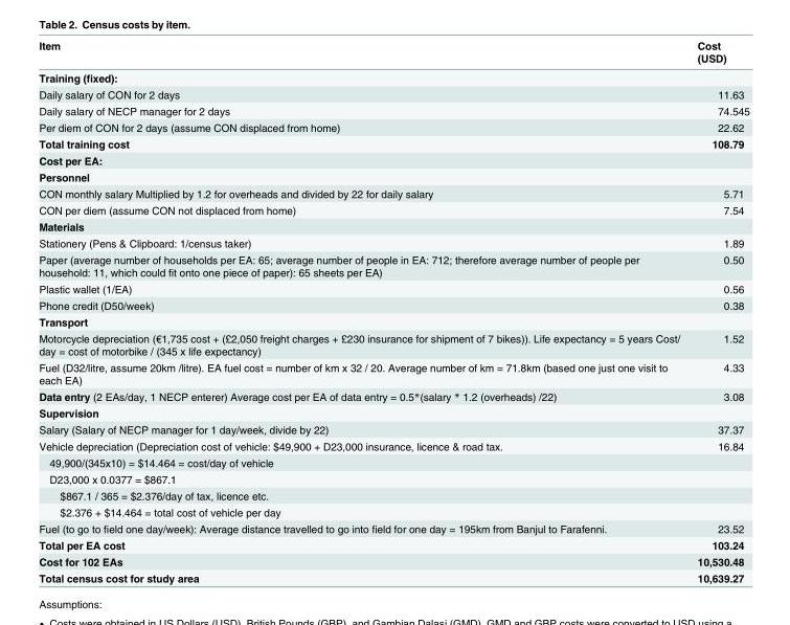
<table><thead><tr><td>Item</td><td>Cost (USD)</td></tr></thead><tbody><tr><td colspan="2">Training (fixed):</td></tr><tr><td>Daily salary of CON for 2 days</td><td>11.63</td></tr><tr><td>Daily salary of NECP manager for 2 days</td><td>74.545</td></tr><tr><td>Per diem of CON for 2 days (assume CON displaced from home)</td><td>22.62</td></tr><tr><td>Total training cost</td><td>108.79</td></tr><tr><td colspan="2">Cost per EA:</td></tr><tr><td colspan="2">Personnel</td></tr><tr><td>CON monthly salary Multiplied by 1.2 for overheads and divided by 22 for daily salary</td><td>5.71</td></tr><tr><td>CON per diem (assume CON not displaced from home)</td><td>7.54</td></tr><tr><td colspan="2">Materials</td></tr><tr><td>Stationery (Pens &amp; Clipboard: 1/census taker)</td><td>1.89</td></tr><tr><td>Paper (average number of households per EA: 65; average number of people in EA: 712; therefore average number of people per household: 11, which could fit onto one piece of paper): 65 sheets per EA)</td><td>0.50</td></tr><tr><td>Plastic wallet (1/EA)</td><td>0.56</td></tr><tr><td>Phone credit (D50/week)</td><td>0.38</td></tr><tr><td colspan="2">Transport</td></tr><tr><td>Motorcycle depreciation (€1,735 cost + (£2,050 freight charges + £230 insurance for shipment of 7 bikes)). Life expectancy = 5 years Cost/ day = cost of motorbike / (345 x life expectancy)</td><td>1.52</td></tr><tr><td>Fuel (D32/litre, assume 20km /litre). EA fuel cost = number of km x 32 / 20. Average number of km = 71.8km (based one just one visit to each EA)</td><td>4.33</td></tr><tr><td>Data entry (2 EAs/day, 1 NECP enterer) Average cost per EA of data entry = 0.5*(salary * 1.2 (overheads) /22)</td><td>3.08</td></tr><tr><td colspan="2">Supervision</td></tr><tr><td>Salary (Salary of NECP manager for 1 day/week, divide by 22)</td><td>37.37</td></tr><tr><td>Vehicle depreciation (Depreciation cost of vehicle: $49,900 + D23,000 insurance, licence &amp; road tax.</td><td>16.84</td></tr><tr><td colspan="2">49,900/(345x10) = $14.464 = cost/day of vehicle</td></tr><tr><td colspan="2">D23,000 x 0.0377 = $867.1</td></tr><tr><td colspan="2">$867.1 / 365 = $2.376/day of tax, licence etc.</td></tr><tr><td colspan="2">$2.376 + $14.464 = total cost of vehicle per day</td></tr><tr><td>Fuel (to go to field one day/week): Average distance travelled to go into field for one day = 195km from Banjul to Farafenni.</td><td>23.52</td></tr><tr><td>Total per EA cost</td><td>103.24</td></tr><tr><td>Cost for 102 EAs</td><td>10,530.48</td></tr><tr><td>Total census cost for study area</td><td>10,639.27</td></tr></tbody></table>